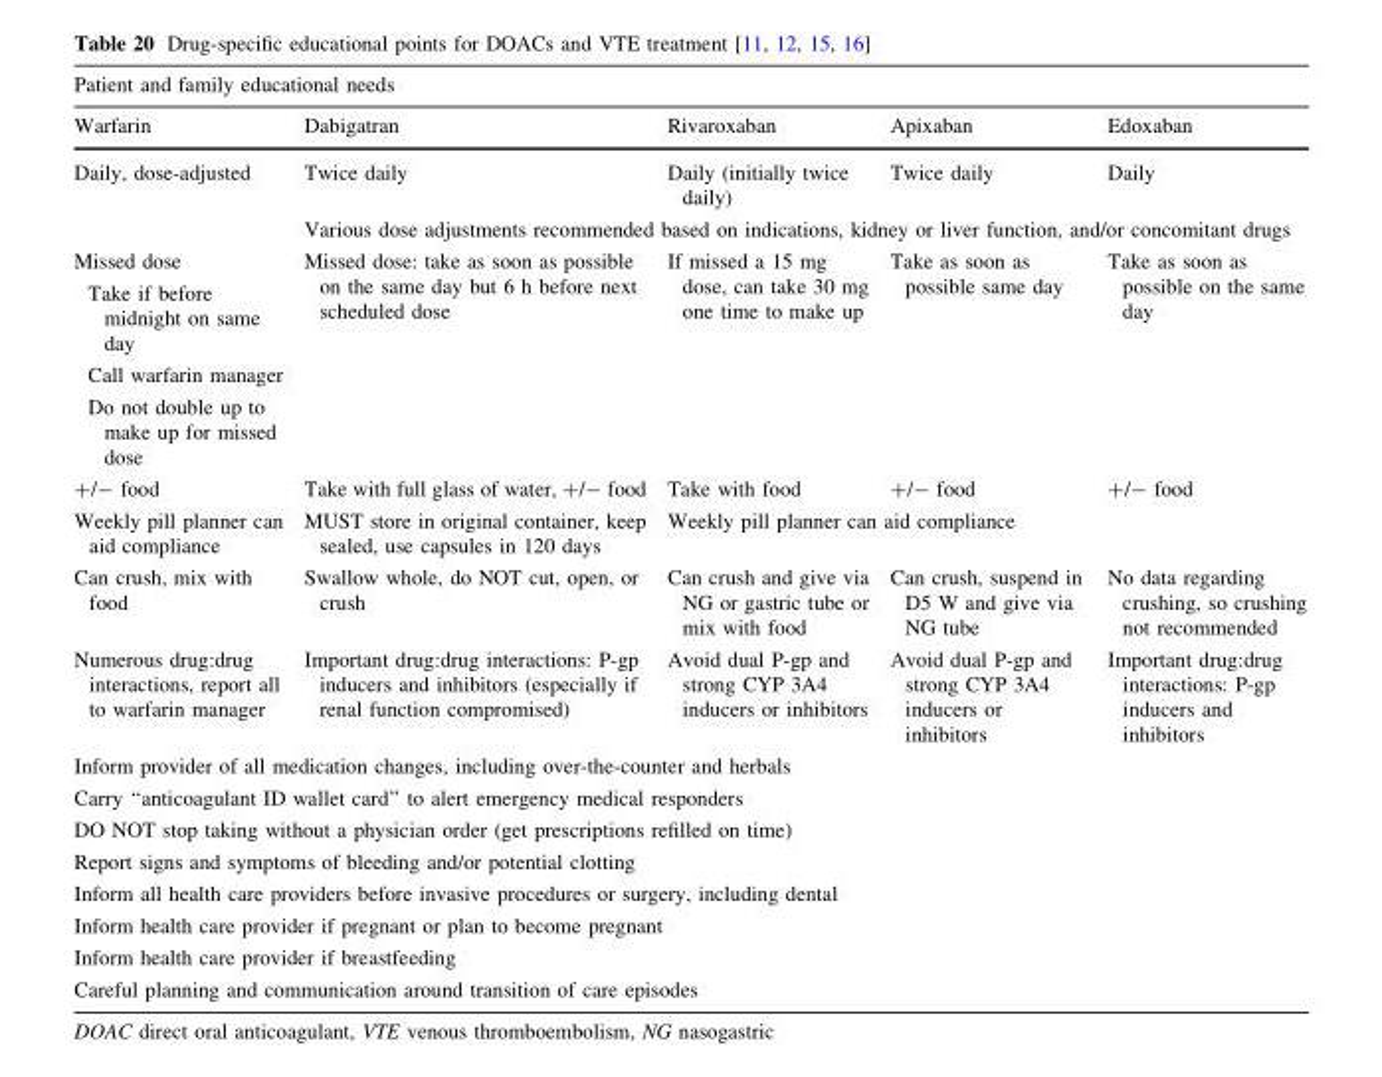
<table><thead><tr><td colspan="5">Patient and family educational needs</td></tr><tr><td>Warfarin</td><td>Dabigatran</td><td>Rivaroxaban</td><td>Apixaban</td><td>Edoxaban</td></tr></thead><tbody><tr><td rowspan="2">Daily, dose-adjusted</td><td>Twice daily</td><td>Daily (initially twice daily)</td><td>Twice daily</td><td>Daily</td></tr><tr><td colspan="4">Various dose adjustments recommended based on indications, kidney or liver function, and/or concomitant drugs</td></tr><tr><td>Missed dose</td><td rowspan="4">Missed dose: take as soon as possible on the same day but 6 h before next scheduled dose</td><td rowspan="4">If missed a 15 mg dose, can take 30 mg one time to make up</td><td rowspan="4">Take as soon as possible same day</td><td rowspan="4">Take as soon as possible on the same day</td></tr><tr><td>Take if before midnight on same day</td></tr><tr><td>Call warfarin manager</td></tr><tr><td>Do not double up to make up for missed dose</td></tr><tr><td>+/- food</td><td>Take with full glass of water, +/- food</td><td>Take with food</td><td>+/- food</td><td>+/- food</td></tr><tr><td>Weekly pill planner can aid compliance</td><td>MUST store in original container, keep sealed, use capsules in 120 days</td><td colspan="3">Weekly pill planner can aid compliance</td></tr><tr><td>Can crush, mix with food</td><td>Swallow whole, do NOT cut, open, or crush</td><td>Can crush and give via NG or gastric tube or mix with food</td><td>Can crush, suspend in D5 W and give via NG tube</td><td>No data regarding crushing, so crushing not recommended</td></tr><tr><td>Numerous drug:drug interactions, report all to warfarin manager</td><td>Important drug:drug interactions: P-gp inducers and inhibitors (especially if renal function compromised)</td><td>Avoid dual P-gp and strong CYP 3A4 inducers or inhibitors</td><td>Avoid dual P-gp and strong CYP 3A4 inducers or inhibitors</td><td>Important drug:drug interactions: P-gp inducers and inhibitors</td></tr><tr><td colspan="5">Inform provider of all medication changes, including over-the-counter and herbals</td></tr><tr><td colspan="5">Carry ‘‘anticoagulant ID wallet card’’ to alert emergency medical responders</td></tr><tr><td colspan="5">DO NOT stop taking without a physician order (get prescriptions refilled on time)</td></tr><tr><td colspan="5">Report signs and symptoms of bleeding and/or potential clotting</td></tr><tr><td colspan="5">Inform all health care providers before invasive procedures or surgery, including dental</td></tr><tr><td colspan="5">Inform health care provider if pregnant or plan to become pregnant</td></tr><tr><td colspan="5">Inform health care provider if breastfeeding</td></tr><tr><td colspan="5">Careful planning and communication around transition of care episodes</td></tr></tbody></table>